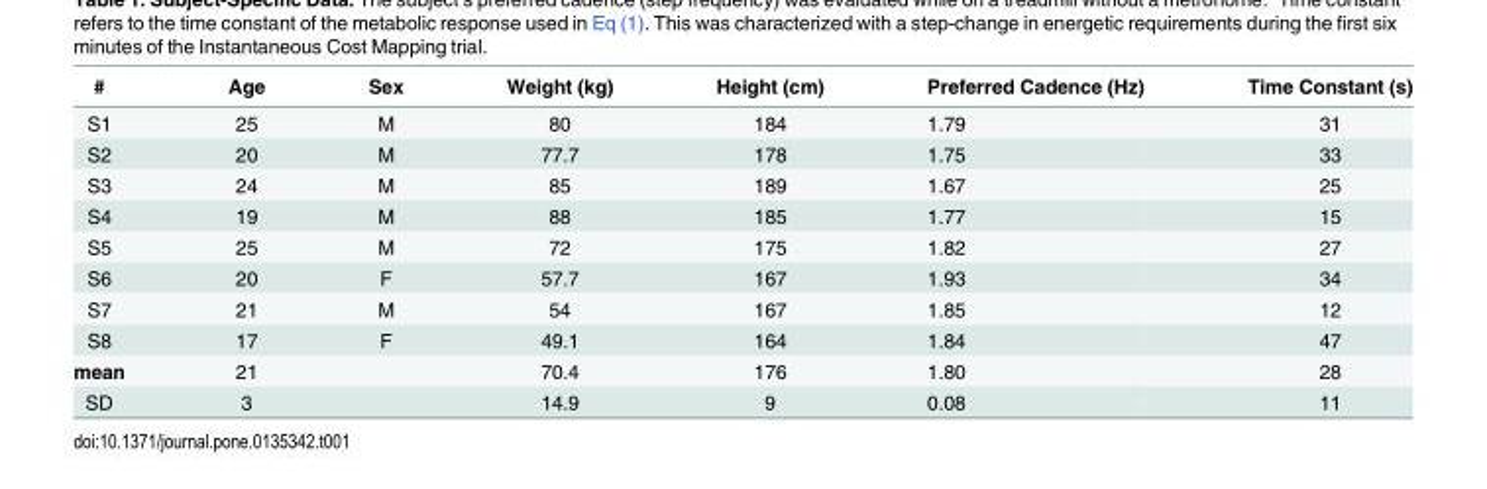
<table><thead><tr><td>#</td><td>Age</td><td>Sex</td><td>Weight (kg)</td><td>Height (cm)</td><td>Preferred Cadence (Hz)</td><td>Time Constant (s)</td></tr></thead><tbody><tr><td>S1</td><td>25</td><td>M</td><td>80</td><td>184</td><td>1.79</td><td>31</td></tr><tr><td>S2</td><td>20</td><td>M</td><td>77.7</td><td>178</td><td>1.75</td><td>33</td></tr><tr><td>S3</td><td>24</td><td>M</td><td>85</td><td>189</td><td>1.67</td><td>25</td></tr><tr><td>S4</td><td>19</td><td>M</td><td>88</td><td>185</td><td>1.77</td><td>15</td></tr><tr><td>S5</td><td>25</td><td>M</td><td>72</td><td>175</td><td>1.82</td><td>27</td></tr><tr><td>S6</td><td>20</td><td>F</td><td>57.7</td><td>167</td><td>1.93</td><td>34</td></tr><tr><td>S7</td><td>21</td><td>M</td><td>54</td><td>167</td><td>1.85</td><td>12</td></tr><tr><td>S8</td><td>17</td><td>F</td><td>49.1</td><td>164</td><td>1.84</td><td>47</td></tr><tr><td>mean</td><td>21</td><td></td><td>70.4</td><td>176</td><td>1.80</td><td>28</td></tr><tr><td>SD</td><td>3</td><td></td><td>14.9</td><td>9</td><td>0.08</td><td>11</td></tr></tbody></table>